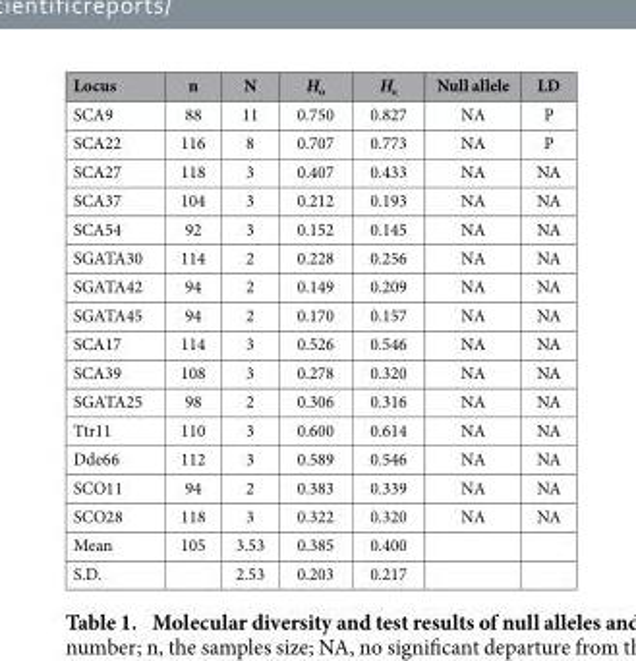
<table><thead><tr><td>Locus</td><td>n</td><td>N</td><td>H<sub>o</sub></td><td>H<sub>e</sub></td><td>Null allele</td><td>LD</td></tr></thead><tbody><tr><td>SCA9</td><td>88</td><td>11</td><td>0.750</td><td>0.827</td><td>NA</td><td>P</td></tr><tr><td>SCA22</td><td>116</td><td>8</td><td>0.707</td><td>0.773</td><td>NA</td><td>P</td></tr><tr><td>SCA27</td><td>118</td><td>3</td><td>0.407</td><td>0.433</td><td>NA</td><td>NA</td></tr><tr><td>SCA37</td><td>104</td><td>3</td><td>0.212</td><td>0.193</td><td>NA</td><td>NA</td></tr><tr><td>SCA54</td><td>92</td><td>3</td><td>0.152</td><td>0.145</td><td>NA</td><td>NA</td></tr><tr><td>SGATA30</td><td>114</td><td>2</td><td>0.228</td><td>0.256</td><td>NA</td><td>NA</td></tr><tr><td>SGATA42</td><td>94</td><td>2</td><td>0.149</td><td>0.209</td><td>NA</td><td>NA</td></tr><tr><td>SGATA45</td><td>94</td><td>2</td><td>0.170</td><td>0.157</td><td>NA</td><td>NA</td></tr><tr><td>SCA17</td><td>114</td><td>3</td><td>0.526</td><td>0.546</td><td>NA</td><td>NA</td></tr><tr><td>SCA39</td><td>108</td><td>3</td><td>0.278</td><td>0.320</td><td>NA</td><td>NA</td></tr><tr><td>SGATA25</td><td>98</td><td>2</td><td>0.306</td><td>0.316</td><td>NA</td><td>NA</td></tr><tr><td>Ttr11</td><td>110</td><td>3</td><td>0.600</td><td>0.614</td><td>NA</td><td>NA</td></tr><tr><td>Dde66</td><td>112</td><td>3</td><td>0.589</td><td>0.546</td><td>NA</td><td>NA</td></tr><tr><td>SCO11</td><td>94</td><td>2</td><td>0.383</td><td>0.339</td><td>NA</td><td>NA</td></tr><tr><td>SCO28</td><td>118</td><td>3</td><td>0.322</td><td>0.320</td><td>NA</td><td>NA</td></tr><tr><td>Mean</td><td>105</td><td>3.53</td><td>0.385</td><td>0.400</td><td></td><td></td></tr><tr><td>S.D.</td><td></td><td>2.53</td><td>0.203</td><td>0.217</td><td></td><td></td></tr></tbody></table>